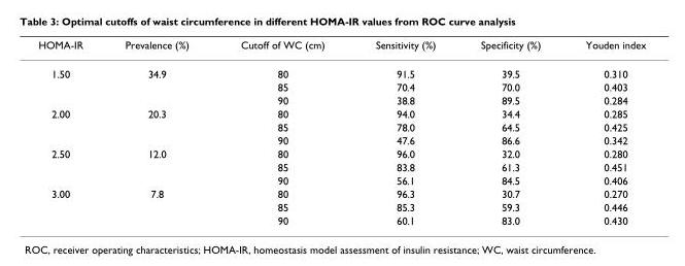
<table><thead><tr><td>HOMA-IR</td><td>Prevalence (%)</td><td>Cutoff of WC (cm)</td><td>Sensitivity (%)</td><td>Specificity (%)</td><td>Youden index</td></tr></thead><tbody><tr><td rowspan="3">1.50</td><td>34.9</td><td>80</td><td>91.5</td><td>39.5</td><td>0.310</td></tr><tr><td></td><td>85</td><td>70.4</td><td>70.0</td><td>0.403</td></tr><tr><td></td><td>90</td><td>38.8</td><td>89.5</td><td>0.284</td></tr><tr><td rowspan="3">2.00</td><td>20.3</td><td>80</td><td>94.0</td><td>34.4</td><td>0.285</td></tr><tr><td></td><td>85</td><td>78.0</td><td>64.5</td><td>0.425</td></tr><tr><td></td><td>90</td><td>47.6</td><td>86.6</td><td>0.342</td></tr><tr><td rowspan="3">2.50</td><td>12.0</td><td>80</td><td>96.0</td><td>32.0</td><td>0.280</td></tr><tr><td></td><td>85</td><td>83.8</td><td>61.3</td><td>0.451</td></tr><tr><td></td><td>90</td><td>56.1</td><td>84.5</td><td>0.406</td></tr><tr><td rowspan="3">3.00</td><td>7.8</td><td>80</td><td>96.3</td><td>30.7</td><td>0.270</td></tr><tr><td></td><td>85</td><td>85.3</td><td>59.3</td><td>0.446</td></tr><tr><td></td><td>90</td><td>60.1</td><td>83.0</td><td>0.430</td></tr></tbody></table>